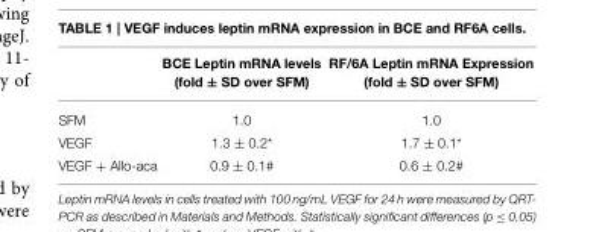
<table><thead><tr><td></td><td>BCE Leptin mRNA levels (fold ± SD over SFM)</td><td>RF/6A Leptin mRNA Expression (fold ± SD over SFM)</td></tr></thead><tbody><tr><td>SFM</td><td>1.0</td><td>1.0</td></tr><tr><td>VEGF</td><td>1.3 ± 0.2*</td><td>1.7 ± 0.1*</td></tr><tr><td>VEGF + Allo-aca</td><td>0.9 ± 0.1<sup>#</sup></td><td>0.6 ± 0.2<sup>#</sup></td></tr></tbody></table>